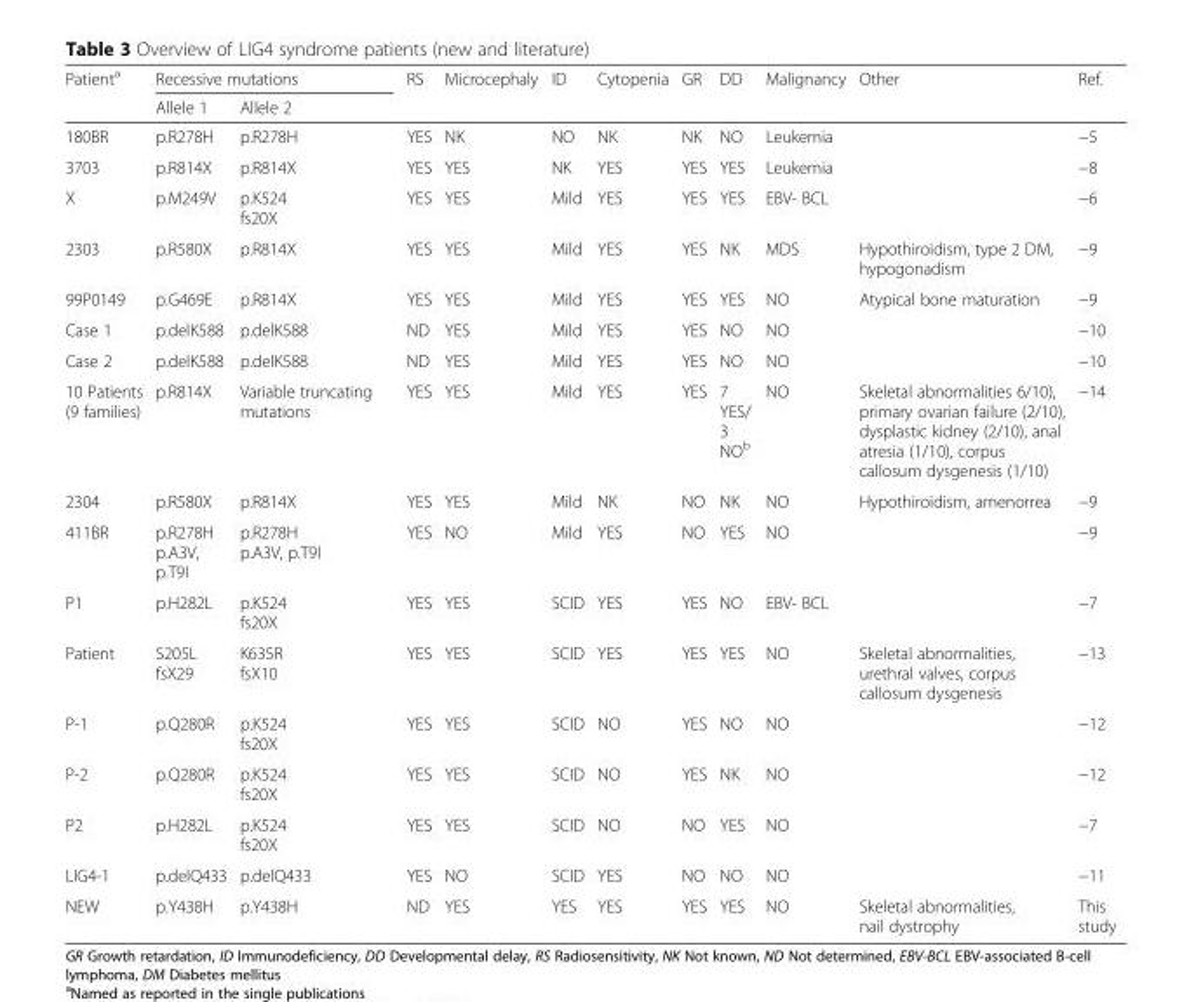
<table><thead><tr><td rowspan="2">Patient<sup>a</sup></td><td colspan="2">Recessive mutations</td><td rowspan="2">RS</td><td rowspan="2">Microcephaly</td><td rowspan="2">ID</td><td rowspan="2">Cytopenia</td><td rowspan="2">GR</td><td rowspan="2">DD</td><td rowspan="2">Malignancy</td><td rowspan="2">Other</td><td rowspan="2">Ref.</td></tr><tr><td>Allele 1</td><td>Allele 2</td></tr></thead><tbody><tr><td>180BR</td><td>p.R278H</td><td>p.R278H</td><td>YES</td><td>NK</td><td>NO</td><td>NK</td><td>NK</td><td>NO</td><td>Leukemia</td><td></td><td>−5</td></tr><tr><td>3703</td><td>p.R814X</td><td>p.R814X</td><td>YES</td><td>YES</td><td>NK</td><td>YES</td><td>YES</td><td>YES</td><td>Leukemia</td><td></td><td>−8</td></tr><tr><td>X</td><td>p.M249V</td><td>p.K524 fs20X</td><td>YES</td><td>YES</td><td>Mild</td><td>YES</td><td>YES</td><td>YES</td><td>EBV- BCL</td><td></td><td>−6</td></tr><tr><td>2303</td><td>p.R580X</td><td>p.R814X</td><td>YES</td><td>YES</td><td>Mild</td><td>YES</td><td>YES</td><td>NK</td><td>MDS</td><td>Hypothiroidism, type 2 DM, hypogonadism</td><td>−9</td></tr><tr><td>99P0149</td><td>p.G469E</td><td>p.R814X</td><td>YES</td><td>YES</td><td>Mild</td><td>YES</td><td>YES</td><td>YES</td><td>NO</td><td>Atypical bone maturation</td><td>−9</td></tr><tr><td>Case 1</td><td>p.delK588</td><td>p.delK588</td><td>ND</td><td>YES</td><td>Mild</td><td>YES</td><td>YES</td><td>NO</td><td>NO</td><td></td><td>−10</td></tr><tr><td>Case 2</td><td>p.delK588</td><td>p.delK588</td><td>ND</td><td>YES</td><td>Mild</td><td>YES</td><td>YES</td><td>NO</td><td>NO</td><td></td><td>−10</td></tr><tr><td>10 Patients (9 families)</td><td>p.R814X</td><td>Variable truncating mutations</td><td>YES</td><td>YES</td><td>Mild</td><td>YES</td><td>YES</td><td>7 YES/ 3 NO<sup>b</sup></td><td>NO</td><td>Skeletal abnormalities 6/10), primary ovarian failure (2/10), dysplastic kidney (2/10), anal atresia (1/10), corpus callosum dysgenesis (1/10)</td><td>−14</td></tr><tr><td>2304</td><td>p.R580X</td><td>p.R814X</td><td>YES</td><td>YES</td><td>Mild</td><td>NK</td><td>NO</td><td>NK</td><td>NO</td><td>Hypothiroidism, amenorrea</td><td>−9</td></tr><tr><td>411BR</td><td>p.R278H p.A3V, p.T9I</td><td>p.R278H p.A3V, p.T9I</td><td>YES</td><td>NO</td><td>Mild</td><td>YES</td><td>NO</td><td>YES</td><td>NO</td><td></td><td>−9</td></tr><tr><td>P1</td><td>p.H282L</td><td>p.K524 fs20X</td><td>YES</td><td>YES</td><td>SCID</td><td>YES</td><td>YES</td><td>NO</td><td>EBV- BCL</td><td></td><td>−7</td></tr><tr><td>Patient</td><td>S205L fsX29</td><td>K635R fsX10</td><td>YES</td><td>YES</td><td>SCID</td><td>YES</td><td>YES</td><td>YES</td><td>NO</td><td>Skeletal abnormalities, urethral valves, corpus callosum dysgenesis</td><td>−13</td></tr><tr><td>P-1</td><td>p.Q280R</td><td>p.K524 fs20X</td><td>YES</td><td>YES</td><td>SCID</td><td>NO</td><td>YES</td><td>NO</td><td>NO</td><td></td><td>−12</td></tr><tr><td>P-2</td><td>p.Q280R</td><td>p.K524 fs20X</td><td>YES</td><td>YES</td><td>SCID</td><td>NO</td><td>YES</td><td>NK</td><td>NO</td><td></td><td>−12</td></tr><tr><td>P2</td><td>p.H282L</td><td>p.K524 fs20X</td><td>YES</td><td>YES</td><td>SCID</td><td>NO</td><td>NO</td><td>YES</td><td>NO</td><td></td><td>−7</td></tr><tr><td>LIG4-1</td><td>p.delQ433</td><td>p.delQ433</td><td>YES</td><td>NO</td><td>SCID</td><td>YES</td><td>NO</td><td>NO</td><td>NO</td><td></td><td>−11</td></tr><tr><td>NEW</td><td>p.Y438H</td><td>p.Y438H</td><td>ND</td><td>YES</td><td>YES</td><td>YES</td><td>YES</td><td>YES</td><td>NO</td><td>Skeletal abnormalities, nail dystrophy</td><td>This study</td></tr></tbody></table>